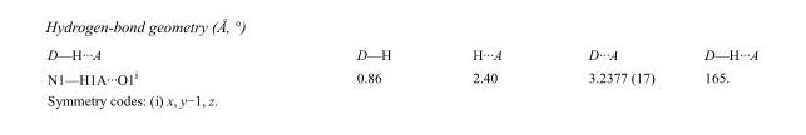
<table><tbody><tr><td>D—H···A</td><td>D—H</td><td>H···A</td><td>D···A</td><td>D—H···A</td></tr><tr><td>N1—H1A···O1<sup>i</sup></td><td>0.86</td><td>2.40</td><td>3.2377 (17)</td><td>165.</td></tr></tbody></table>